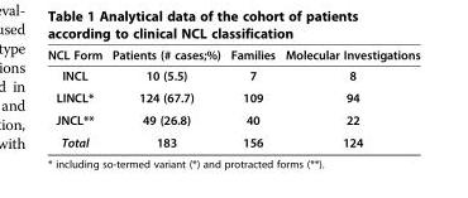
<table><thead><tr><td>NCL Form</td><td>Patients (# cases;%)</td><td>Families</td><td>Molecular Investigations</td></tr></thead><tbody><tr><td>INCL</td><td>10 (5.5)</td><td>7</td><td>8</td></tr><tr><td>LINCL*</td><td>124 (67.7)</td><td>109</td><td>94</td></tr><tr><td>JNCL**</td><td>49 (26.8)</td><td>40</td><td>22</td></tr><tr><td>Total</td><td>183</td><td>156</td><td>124</td></tr></tbody></table>